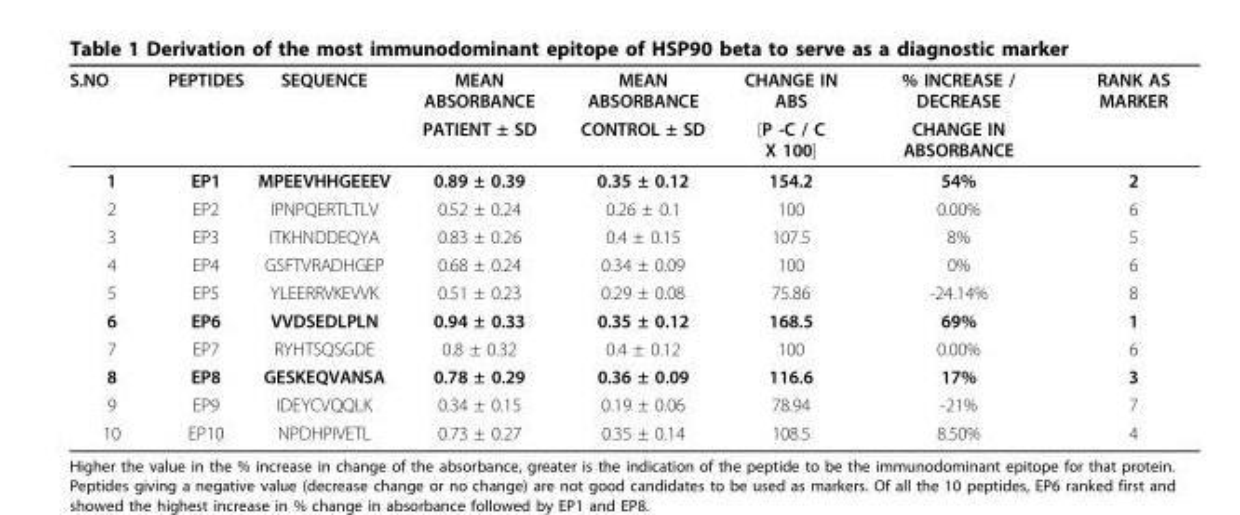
<table><thead><tr><td rowspan="2">S.NO</td><td rowspan="2">PEPTIDES</td><td rowspan="2">SEQUENCE</td><td rowspan="2">MEAN ABSORBANCE PATIENT ± SD</td><td rowspan="2">MEAN ABSORBANCE CONTROL ± SD</td><td rowspan="2">CHANGE IN ABS [P -C / C X 100]</td><td rowspan="2">% INCREASE / DECREASE CHANGE IN ABSORBANCE</td><td rowspan="2">RANK AS MARKER</td></tr><tr></tr></thead><tbody><tr><td>1</td><td>EP1</td><td>MPEEVHHGEEEV</td><td>0.89 ± 0.39</td><td>0.35 ± 0.12</td><td>154.2</td><td>54%</td><td>2</td></tr><tr><td>2</td><td>EP2</td><td>IPNPQERTLTLV</td><td>0.52 ± 0.24</td><td>0.26 ± 0.1</td><td>100</td><td>0.00%</td><td>6</td></tr><tr><td>3</td><td>EP3</td><td>ITKHNDDEQYA</td><td>0.83 ± 0.26</td><td>0.4 ± 0.15</td><td>107.5</td><td>8%</td><td>5</td></tr><tr><td>4</td><td>EP4</td><td>GSFTVRADHGEP</td><td>0.68 ± 0.24</td><td>0.34 ± 0.09</td><td>100</td><td>0%</td><td>6</td></tr><tr><td>5</td><td>EP5</td><td>YLEERRVKEVVK</td><td>0.51 ± 0.23</td><td>0.29 ± 0.08</td><td>75.86</td><td>-24.14%</td><td>8</td></tr><tr><td>6</td><td>EP6</td><td>VVDSEDLPLN</td><td>0.94 ± 0.33</td><td>0.35 ± 0.12</td><td>168.5</td><td>69%</td><td>1</td></tr><tr><td>7</td><td>EP7</td><td>RYHTSQSGDE</td><td>0.8 ± 0.32</td><td>0.4 ± 0.12</td><td>100</td><td>0.00%</td><td>6</td></tr><tr><td>8</td><td>EP8</td><td>GESKEQVANSA</td><td>0.78 ± 0.29</td><td>0.36 ± 0.09</td><td>116.6</td><td>17%</td><td>3</td></tr><tr><td>9</td><td>EP9</td><td>IDEYCVQQLK</td><td>0.34 ± 0.15</td><td>0.19 ± 0.06</td><td>78.94</td><td>-21%</td><td>7</td></tr><tr><td>10</td><td>EP10</td><td>NPDHPIVETL</td><td>0.73 ± 0.27</td><td>0.35 ± 0.14</td><td>108.5</td><td>8.50%</td><td>4</td></tr></tbody></table>